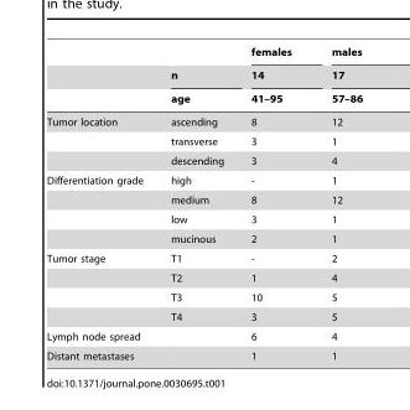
<table><thead><tr><td rowspan="3"></td><td rowspan="3">n age</td><td rowspan="3">females 14 41–95</td><td rowspan="3">males 17 57–86</td></tr><tr></tr><tr></tr></thead><tbody><tr><td rowspan="3">Tumor location</td><td>ascending</td><td>8</td><td>12</td></tr><tr><td>transverse</td><td>3</td><td>1</td></tr><tr><td>descending</td><td>3</td><td>4</td></tr><tr><td rowspan="4">Differentiation grade</td><td>high</td><td>-</td><td>1</td></tr><tr><td>medium</td><td>8</td><td>12</td></tr><tr><td>low</td><td>3</td><td>1</td></tr><tr><td>mucinous</td><td>2</td><td>1</td></tr><tr><td rowspan="4">Tumor stage</td><td>T1</td><td>-</td><td>2</td></tr><tr><td>T2</td><td>1</td><td>4</td></tr><tr><td>T3</td><td>10</td><td>5</td></tr><tr><td>T4</td><td>3</td><td>5</td></tr><tr><td>Lymph node spread</td><td></td><td>6</td><td>4</td></tr><tr><td>Distant metastases</td><td></td><td>1</td><td>1</td></tr></tbody></table>